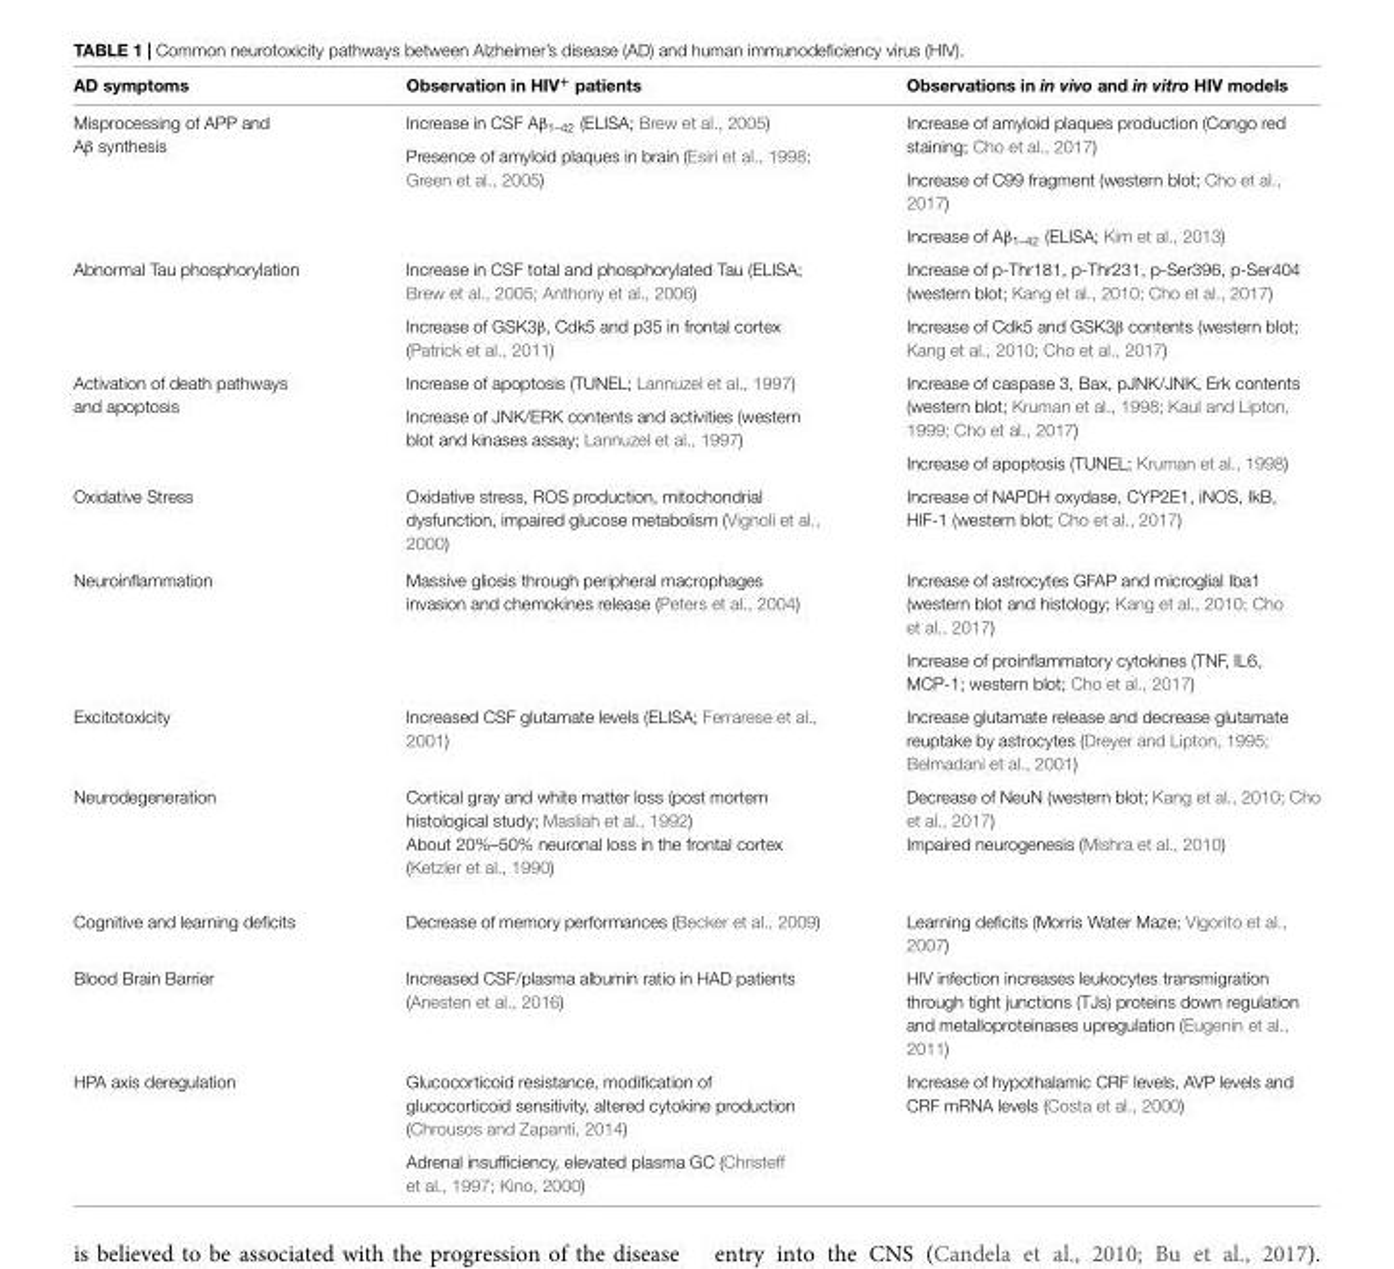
<table><thead><tr><td>AD symptoms</td><td>Observation in HIV<sup>+</sup> patients</td><td>Observations in in vivo and in vitro HIV models</td></tr></thead><tbody><tr><td>Misprocessing of APP and Aβ synthesis</td><td>Increase in CSF Aβ<sub>1–42</sub> (ELISA; Brew et al., 2005) Presence of amyloid plaques in brain (Esiri et al., 1998; Green et al., 2005)</td><td>Increase of amyloid plaques production (Congo red staining; Cho et al., 2017) Increase of C99 fragment (western blot; Cho et al., 2017) Increase of Aβ<sub>1–42</sub> (ELISA; Kim et al., 2013)</td></tr><tr><td>Abnormal Tau phosphorylation</td><td>Increase in CSF total and phosphorylated Tau (ELISA; Brew et al., 2005; Anthony et al., 2006) Increase of GSK3β, Cdk5 and p35 in frontal cortex (Patrick et al., 2011)</td><td>Increase of p-Thr181, p-Thr231, p-Ser396, p-Ser404 (western blot; Kang et al., 2010; Cho et al., 2017) Increase of Cdk5 and GSK3β contents (western blot; Kang et al., 2010; Cho et al., 2017)</td></tr><tr><td>Activation of death pathways and apoptosis</td><td>Increase of apoptosis (TUNEL; Lannuzel et al., 1997) Increase of JNK/ERK contents and activities (western blot and kinases assay; Lannuzel et al., 1997)</td><td>Increase of caspase 3, Bax, pJNK/JNK, Erk contents (western blot; Kruman et al., 1998; Kaul and Lipton, 1999; Cho et al., 2017) Increase of apoptosis (TUNEL; Kruman et al., 1998)</td></tr><tr><td>Oxidative Stress</td><td>Oxidative stress, ROS production, mitochondrial dysfunction, impaired glucose metabolism (Vignoli et al., 2000)</td><td>Increase of NAPDH oxydase, CYP2E1, iNOS, IkB, HIF-1 (western blot; Cho et al., 2017)</td></tr><tr><td>Neuroinflammation</td><td>Massive gliosis through peripheral macrophages invasion and chemokines release (Peters et al., 2004)</td><td>Increase of astrocytes GFAP and microglial Iba1 (western blot and histology; Kang et al., 2010; Cho et al., 2017) Increase of proinflammatory cytokines (TNF, IL6, MCP-1; western blot; Cho et al., 2017)</td></tr><tr><td>Excitotoxicity</td><td>Increased CSF glutamate levels (ELISA; Ferrarese et al., 2001)</td><td>Increase glutamate release and decrease glutamate reuptake by astrocytes (Dreyer and Lipton, 1995; Belmadani et al., 2001)</td></tr><tr><td>Neurodegeneration</td><td>Cortical gray and white matter loss (post mortem histological study; Masliah et al., 1992) About 20%–50% neuronal loss in the frontal cortex (Ketzler et al., 1990)</td><td>Decrease of NeuN (western blot; Kang et al., 2010; Cho et al., 2017) Impaired neurogenesis (Mishra et al., 2010)</td></tr><tr><td>Cognitive and learning deficits</td><td>Decrease of memory performances (Becker et al., 2009)</td><td>Learning deficits (Morris Water Maze; Vigorito et al., 2007)</td></tr><tr><td>Blood Brain Barrier</td><td>Increased CSF/plasma albumin ratio in HAD patients (Anesten et al., 2016)</td><td>HIV infection increases leukocytes transmigration through tight junctions (TJs) proteins down regulation and metalloproteinases upregulation (Eugenin et al., 2011)</td></tr><tr><td>HPA axis deregulation</td><td>Glucocorticoid resistance, modification of glucocorticoid sensitivity, altered cytokine production (Chrousos and Zapanti, 2014) Adrenal insufficiency, elevated plasma GC (Christeff et al., 1997; Kino, 2000)</td><td>Increase of hypothalamic CRF levels, AVP levels and CRF mRNA levels (Costa et al., 2000)</td></tr></tbody></table>